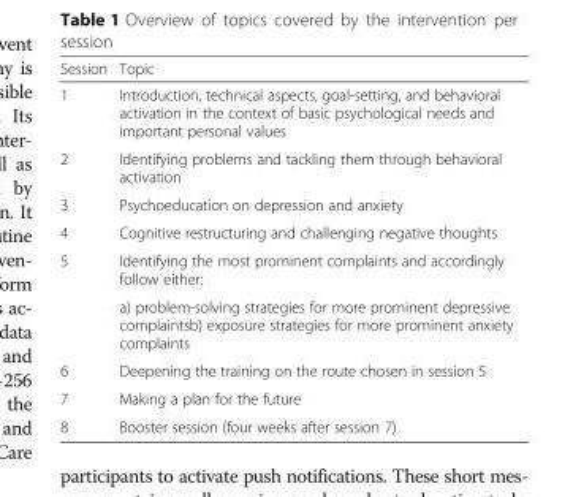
<table><thead><tr><td>Session</td><td>Topic</td></tr></thead><tbody><tr><td>1</td><td>Introduction, technical aspects, goal-setting, and behavioral activation in the context of basic psychological needs and important personal values</td></tr><tr><td>2</td><td>Identifying problems and tackling them through behavioral activation</td></tr><tr><td>3</td><td>Psychoeducation on depression and anxiety</td></tr><tr><td>4</td><td>Cognitive restructuring and challenging negative thoughts</td></tr><tr><td rowspan="2">5</td><td>Identifying the most prominent complaints and accordingly follow either:</td></tr><tr><td>a) problem-solving strategies for more prominent depressive complaintsb) exposure strategies for more prominent anxiety complaints</td></tr><tr><td>6</td><td>Deepening the training on the route chosen in session 5</td></tr><tr><td>7</td><td>Making a plan for the future</td></tr><tr><td>8</td><td>Booster session (four weeks after session 7)</td></tr></tbody></table>